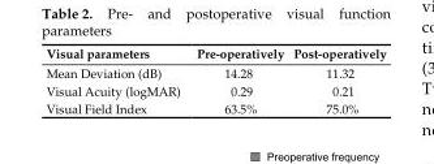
<table><thead><tr><td>Visual parameters</td><td>Pre-operatively</td><td>Post-operatively</td></tr></thead><tbody><tr><td>Mean Deviation (dB)</td><td>14.28</td><td>11.32</td></tr><tr><td>Visual Acuity (logMAR)</td><td>0.29</td><td>0.21</td></tr><tr><td>Visual Field Index</td><td>63.5%</td><td>75.0%</td></tr></tbody></table>